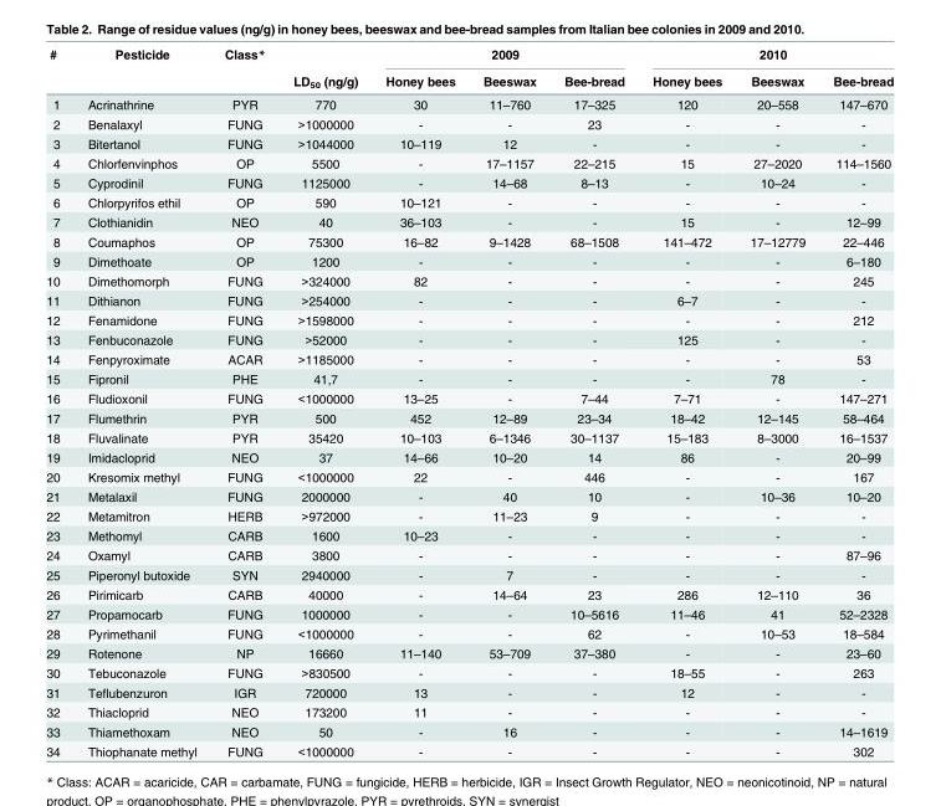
<table><thead><tr><td rowspan="2">#</td><td rowspan="2">Pesticide</td><td rowspan="2">Class*</td><td rowspan="2">LD<sub>50</sub> (ng/g)</td><td colspan="3">2009</td><td colspan="3">2010</td></tr><tr><td>Honey bees</td><td>Beeswax</td><td>Bee-bread</td><td>Honey bees</td><td>Beeswax</td><td>Bee-bread</td></tr></thead><tbody><tr><td>1</td><td>Acrinathrine</td><td>PYR</td><td>770</td><td>30</td><td>11–760</td><td>17–325</td><td>120</td><td>20–558</td><td>147–670</td></tr><tr><td>2</td><td>Benalaxyl</td><td>FUNG</td><td>&gt;1000000</td><td>-</td><td>-</td><td>23</td><td>-</td><td>-</td><td>-</td></tr><tr><td>3</td><td>Bitertanol</td><td>FUNG</td><td>&gt;1044000</td><td>10–119</td><td>12</td><td>-</td><td>-</td><td>-</td><td>-</td></tr><tr><td>4</td><td>Chlorfenvinphos</td><td>OP</td><td>5500</td><td>-</td><td>17–1157</td><td>22–215</td><td>15</td><td>27–2020</td><td>114–1560</td></tr><tr><td>5</td><td>Cyprodinil</td><td>FUNG</td><td>1125000</td><td>-</td><td>14–68</td><td>8–13</td><td>-</td><td>10–24</td><td>-</td></tr><tr><td>6</td><td>Chlorpyrifos ethil</td><td>OP</td><td>590</td><td>10–121</td><td>-</td><td>-</td><td>-</td><td>-</td><td>-</td></tr><tr><td>7</td><td>Clothianidin</td><td>NEO</td><td>40</td><td>36–103</td><td>-</td><td>-</td><td>15</td><td>-</td><td>12–99</td></tr><tr><td>8</td><td>Coumaphos</td><td>OP</td><td>75300</td><td>16–82</td><td>9–1428</td><td>68–1508</td><td>141–472</td><td>17–12779</td><td>22–446</td></tr><tr><td>9</td><td>Dimethoate</td><td>OP</td><td>1200</td><td>-</td><td>-</td><td>-</td><td>-</td><td>-</td><td>6–180</td></tr><tr><td>10</td><td>Dimethomorph</td><td>FUNG</td><td>&gt;324000</td><td>82</td><td>-</td><td>-</td><td>-</td><td>-</td><td>245</td></tr><tr><td>11</td><td>Dithianon</td><td>FUNG</td><td>&gt;254000</td><td>-</td><td>-</td><td>-</td><td>6–7</td><td>-</td><td>-</td></tr><tr><td>12</td><td>Fenamidone</td><td>FUNG</td><td>&gt;1598000</td><td>-</td><td>-</td><td>-</td><td>-</td><td>-</td><td>212</td></tr><tr><td>13</td><td>Fenbuconazole</td><td>FUNG</td><td>&gt;52000</td><td>-</td><td>-</td><td>-</td><td>125</td><td>-</td><td>-</td></tr><tr><td>14</td><td>Fenpyroximate</td><td>ACAR</td><td>&gt;1185000</td><td>-</td><td>-</td><td>-</td><td>-</td><td>-</td><td>53</td></tr><tr><td>15</td><td>Fipronil</td><td>PHE</td><td>41,7</td><td>-</td><td>-</td><td>-</td><td>-</td><td>78</td><td>-</td></tr><tr><td>16</td><td>Fludioxonil</td><td>FUNG</td><td>&lt;1000000</td><td>13–25</td><td>-</td><td>7–44</td><td>7–71</td><td>-</td><td>147–271</td></tr><tr><td>17</td><td>Flumethrin</td><td>PYR</td><td>500</td><td>452</td><td>12–89</td><td>23–34</td><td>18–42</td><td>12–145</td><td>58–464</td></tr><tr><td>18</td><td>Fluvalinate</td><td>PYR</td><td>35420</td><td>10–103</td><td>6–1346</td><td>30–1137</td><td>15–183</td><td>8–3000</td><td>16–1537</td></tr><tr><td>19</td><td>Imidacloprid</td><td>NEO</td><td>37</td><td>14–66</td><td>10–20</td><td>14</td><td>86</td><td>-</td><td>20–99</td></tr><tr><td>20</td><td>Kresomix methyl</td><td>FUNG</td><td>&lt;1000000</td><td>22</td><td>-</td><td>446</td><td>-</td><td>-</td><td>167</td></tr><tr><td>21</td><td>Metalaxil</td><td>FUNG</td><td>2000000</td><td>-</td><td>40</td><td>10</td><td>-</td><td>10–36</td><td>10–20</td></tr><tr><td>22</td><td>Metamitron</td><td>HERB</td><td>&gt;972000</td><td>-</td><td>11–23</td><td>9</td><td>-</td><td>-</td><td>-</td></tr><tr><td>23</td><td>Methomyl</td><td>CARB</td><td>1600</td><td>10–23</td><td>-</td><td>-</td><td>-</td><td>-</td><td>-</td></tr><tr><td>24</td><td>Oxamyl</td><td>CARB</td><td>3800</td><td>-</td><td>-</td><td>-</td><td>-</td><td>-</td><td>87–96</td></tr><tr><td>25</td><td>Piperonyl butoxide</td><td>SYN</td><td>2940000</td><td>-</td><td>7</td><td>-</td><td>-</td><td>-</td><td>-</td></tr><tr><td>26</td><td>Pirimicarb</td><td>CARB</td><td>40000</td><td>-</td><td>14–64</td><td>23</td><td>286</td><td>12–110</td><td>36</td></tr><tr><td>27</td><td>Propamocarb</td><td>FUNG</td><td>1000000</td><td>-</td><td>-</td><td>10–5616</td><td>11–46</td><td>41</td><td>52–2328</td></tr><tr><td>28</td><td>Pyrimethanil</td><td>FUNG</td><td>&lt;1000000</td><td>-</td><td>-</td><td>62</td><td>-</td><td>10–53</td><td>18–584</td></tr><tr><td>29</td><td>Rotenone</td><td>NP</td><td>16660</td><td>11–140</td><td>53–709</td><td>37–380</td><td>-</td><td>-</td><td>23–60</td></tr><tr><td>30</td><td>Tebuconazole</td><td>FUNG</td><td>&gt;830500</td><td>-</td><td>-</td><td>-</td><td>18–55</td><td>-</td><td>263</td></tr><tr><td>31</td><td>Teflubenzuron</td><td>IGR</td><td>720000</td><td>13</td><td>-</td><td>-</td><td>12</td><td>-</td><td>-</td></tr><tr><td>32</td><td>Thiacloprid</td><td>NEO</td><td>173200</td><td>11</td><td>-</td><td>-</td><td>-</td><td>-</td><td>-</td></tr><tr><td>33</td><td>Thiamethoxam</td><td>NEO</td><td>50</td><td>-</td><td>16</td><td>-</td><td>-</td><td>-</td><td>14–1619</td></tr><tr><td>34</td><td>Thiophanate methyl</td><td>FUNG</td><td>&lt;1000000</td><td>-</td><td>-</td><td>-</td><td>-</td><td>-</td><td>302</td></tr></tbody></table>